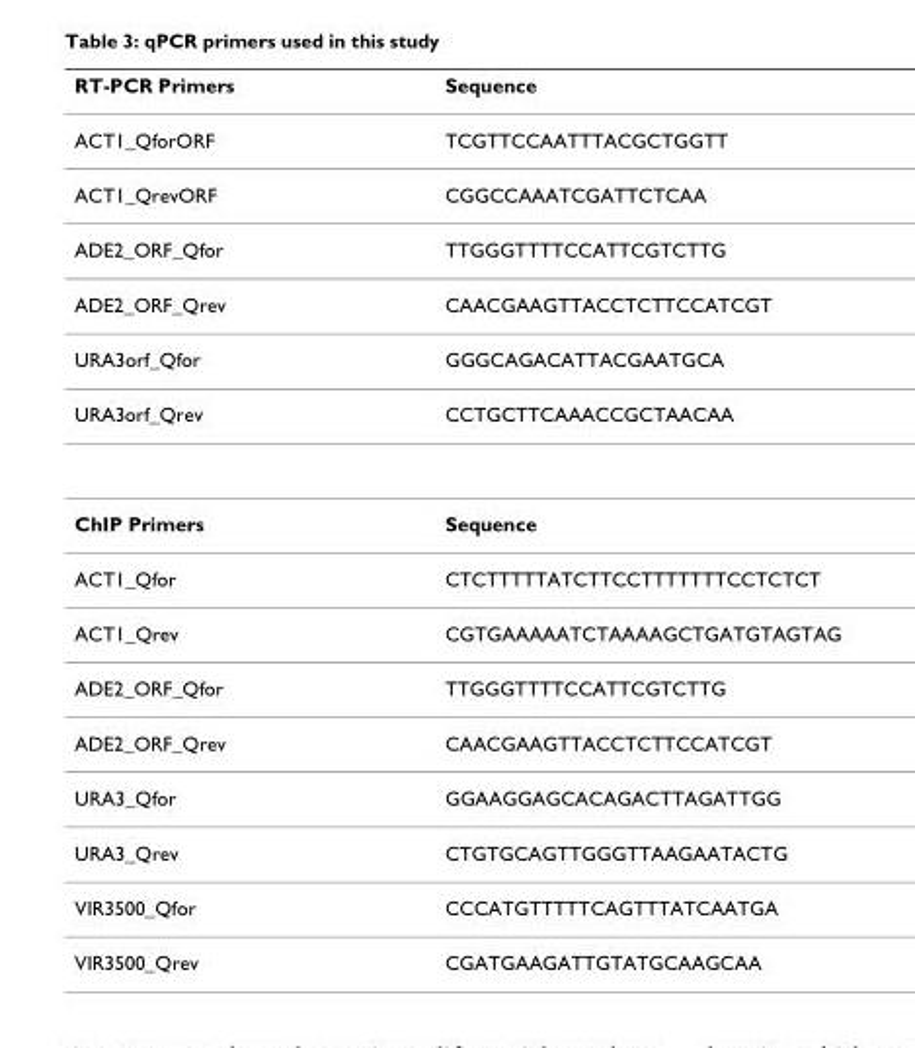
<table><thead><tr><td>RT-PCR Primers</td><td>Sequence</td></tr></thead><tbody><tr><td>ACT1_QforORF</td><td>TCGTTCCAATTTACGCTGGTT</td></tr><tr><td>ACT1_QrevORF</td><td>CGGCCAAATCGATTCTCAA</td></tr><tr><td>ADE2_ORF_Qfor</td><td>TTGGGTTTTCCATTCGTCTTG</td></tr><tr><td>ADE2_ORF_Qrev</td><td>CAACGAAGTTACCTCTTCCATCGT</td></tr><tr><td>URA3orf_Qfor</td><td>GGGCAGACATTACGAATGCA</td></tr><tr><td>URA3orf_Qrev</td><td>CCTGCTTCAAACCGCTAACAA</td></tr><tr><td>ChIP Primers</td><td>Sequence</td></tr><tr><td>ACT1_Qfor</td><td>CTCTTTTTATCTTCCTTTTTTTCCTCTCT</td></tr><tr><td>ACT1_Qrev</td><td>CGTGAAAAATCTAAAAGCTGATGTAGTAG</td></tr><tr><td>ADE2_ORF_Qfor</td><td>TTGGGTTTTCCATTCGTCTTG</td></tr><tr><td>ADE2_ORF_Qrev</td><td>CAACGAAGTTACCTCTTCCATCGT</td></tr><tr><td>URA3_Qfor</td><td>GGAAGGAGCACAGACTTAGATTGG</td></tr><tr><td>URA3_Qrev</td><td>CTGTGCAGTTGGGTTAAGAATACTG</td></tr><tr><td>VIR3500_Qfor</td><td>CCCATGTTTTTCAGTTTATCAATGA</td></tr><tr><td>VIR3500_Qrev</td><td>CGATGAAGATTGTATGCAAGCAA</td></tr></tbody></table>